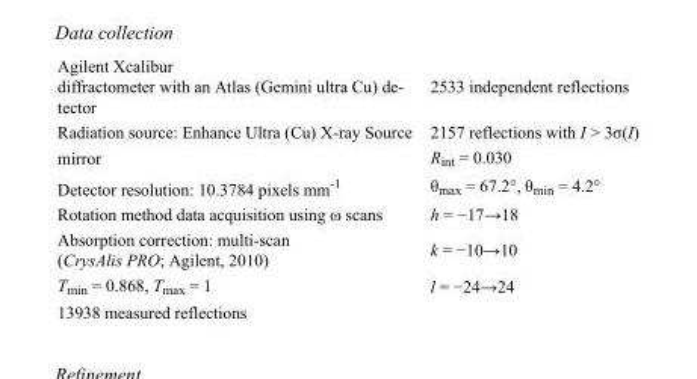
<table><tbody><tr><td>Agilent Xcalibur diffractometer with an Atlas (Gemini ultra Cu) de- tector</td><td>2533 independent reflections</td></tr><tr><td>Radiation source: Enhance Ultra (Cu) X-ray Source</td><td>2157 reflections with I &gt; 3σ(I)</td></tr><tr><td>mirror</td><td>R<sub>int</sub> = 0.030</td></tr><tr><td>Detector resolution: 10.3784 pixels mm<sup>-1</sup></td><td>θ<sub>max</sub> = 67.2°, θ<sub>min</sub> = 4.2°</td></tr><tr><td>Rotation method data acquisition using ω scans</td><td>h = −17→18</td></tr><tr><td>Absorption correction: multi-scan (CrysAlis PRO; Agilent, 2010)</td><td>k = −10→10</td></tr><tr><td>T<sub>min</sub> = 0.868, T<sub>max</sub> = 1</td><td>l = −24→24</td></tr><tr><td>13938 measured reflections</td><td></td></tr></tbody></table>